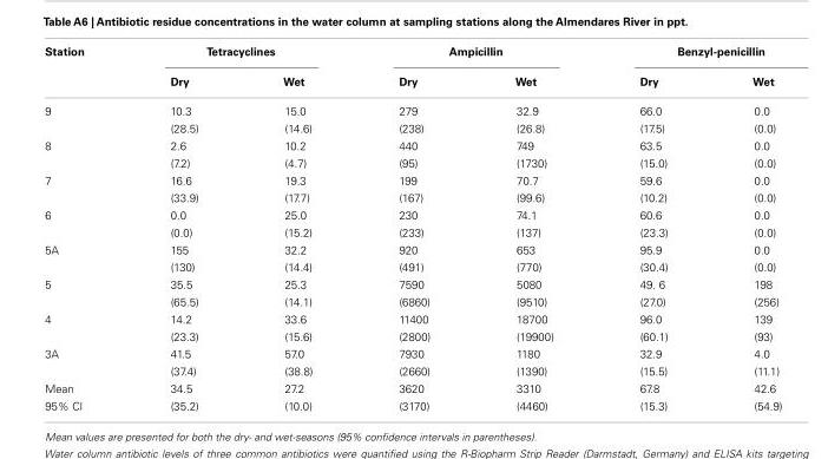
<table><thead><tr><td rowspan="2">Station</td><td colspan="2">Tetracyclines</td><td colspan="2">Ampicillin</td><td colspan="2">Benzyl-penicillin</td></tr><tr><td>Dry</td><td>Wet</td><td>Dry</td><td>Wet</td><td>Dry</td><td>Wet</td></tr></thead><tbody><tr><td rowspan="2">9</td><td>10.3</td><td>15.0</td><td>279</td><td>32.9</td><td>66.0</td><td>0.0</td></tr><tr><td>(28.5)</td><td>(14.6)</td><td>(238)</td><td>(26.8)</td><td>(17.5)</td><td>(0.0)</td></tr><tr><td rowspan="2">8</td><td>2.6</td><td>10.2</td><td>440</td><td>749</td><td>63.5</td><td>0.0</td></tr><tr><td>(7.2)</td><td>(4.7)</td><td>(95)</td><td>(1730)</td><td>(15.0)</td><td>(0.0)</td></tr><tr><td rowspan="2">7</td><td>16.6</td><td>19.3</td><td>199</td><td>70.7</td><td>59.6</td><td>0.0</td></tr><tr><td>(33.9)</td><td>(17.7)</td><td>(167)</td><td>(99.6)</td><td>(10.2)</td><td>(0.0)</td></tr><tr><td rowspan="2">6</td><td>0.0</td><td>25.0</td><td>230</td><td>74.1</td><td>60.6</td><td>0.0</td></tr><tr><td>(0.0)</td><td>(15.2)</td><td>(233)</td><td>(137)</td><td>(23.3)</td><td>(0.0)</td></tr><tr><td rowspan="2">5A</td><td>155</td><td>32.2</td><td>920</td><td>653</td><td>95.9</td><td>0.0</td></tr><tr><td>(130)</td><td>(14.4)</td><td>(491)</td><td>(770)</td><td>(30.4)</td><td>(0.0)</td></tr><tr><td rowspan="2">5</td><td>35.5</td><td>25.3</td><td>7590</td><td>5080</td><td>49. 6</td><td>198</td></tr><tr><td>(65.5)</td><td>(14.1)</td><td>(6860)</td><td>(9510)</td><td>(27.0)</td><td>(256)</td></tr><tr><td rowspan="2">4</td><td>14.2</td><td>33.6</td><td>11400</td><td>18700</td><td>96.0</td><td>139</td></tr><tr><td>(23.3)</td><td>(15.6)</td><td>(2800)</td><td>(19900)</td><td>(60.1)</td><td>(93)</td></tr><tr><td rowspan="2">3A</td><td>41.5</td><td>57.0</td><td>7930</td><td>1180</td><td>32.9</td><td>4.0</td></tr><tr><td>(37.4)</td><td>(38.8)</td><td>(2660)</td><td>(1390)</td><td>(15.5)</td><td>(11.1)</td></tr><tr><td>Mean</td><td>34.5</td><td>27.2</td><td>3620</td><td>3310</td><td>67.8</td><td>42.6</td></tr><tr><td>95% CI</td><td>(35.2)</td><td>(10.0)</td><td>(3170)</td><td>(4460)</td><td>(15.3)</td><td>(54.9)</td></tr></tbody></table>